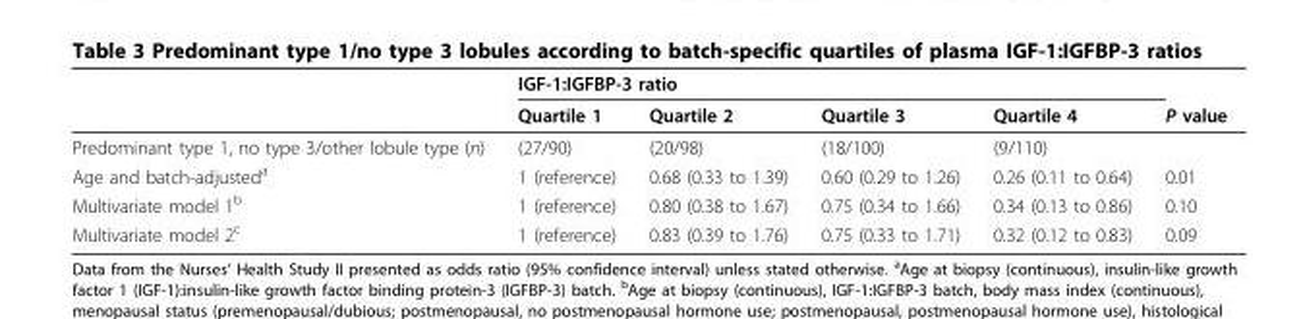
<table><thead><tr><td rowspan="2"></td><td colspan="4">IGF-1:IGFBP-3 ratio</td><td rowspan="2">P value</td></tr><tr><td>Quartile 1</td><td>Quartile 2</td><td>Quartile 3</td><td>Quartile 4</td></tr></thead><tbody><tr><td>Predominant type 1, no type 3/other lobule type (n)</td><td>(27/90)</td><td>(20/98)</td><td>(18/100)</td><td>(9/110)</td><td></td></tr><tr><td>Age and batch-adjusted<sup>a</sup></td><td>1 (reference)</td><td>0.68 (0.33 to 1.39)</td><td>0.60 (0.29 to 1.26)</td><td>0.26 (0.11 to 0.64)</td><td>0.01</td></tr><tr><td>Multivariate model 1<sup>b</sup></td><td>1 (reference)</td><td>0.80 (0.38 to 1.67)</td><td>0.75 (0.34 to 1.66)</td><td>0.34 (0.13 to 0.86)</td><td>0.10</td></tr><tr><td>Multivariate model 2<sup>c</sup></td><td>1 (reference)</td><td>0.83 (0.39 to 1.76)</td><td>0.75 (0.33 to 1.71)</td><td>0.32 (0.12 to 0.83)</td><td>0.09</td></tr></tbody></table>